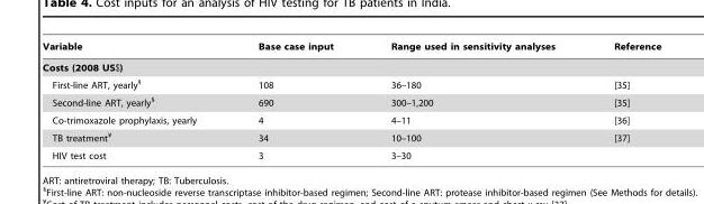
<table><thead><tr><td>Variable</td><td>Base case input</td><td>Range used in sensitivity analyses</td><td>Reference</td></tr></thead><tbody><tr><td colspan="4">Costs (2008 US$)</td></tr><tr><td>First-line ART, yearly§</td><td>108</td><td>36–180</td><td>[35]</td></tr><tr><td>Second-line ART, yearly§</td><td>690</td><td>300–1,200</td><td>[35]</td></tr><tr><td>Co-trimoxazole prophylaxis, yearly</td><td>4</td><td>4–11</td><td>[36]</td></tr><tr><td>TB treatment¥</td><td>34</td><td>10–100</td><td>[37]</td></tr><tr><td>HIV test cost</td><td>3</td><td>3–30</td><td></td></tr></tbody></table>